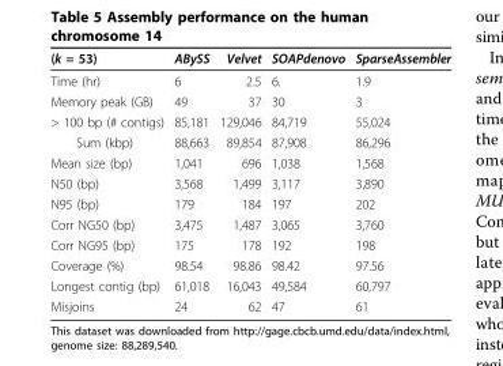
<table><thead><tr><td>(k = 53)</td><td>ABySS</td><td>Velvet</td><td>SOAPdenovo</td><td>SparseAssembler</td></tr></thead><tbody><tr><td>Time (hr)</td><td>6</td><td>2.5</td><td>6.</td><td>1.9</td></tr><tr><td>Memory peak (GB)</td><td>49</td><td>37</td><td>30</td><td>3</td></tr><tr><td>&gt; 100 bp (# contigs)</td><td>85,181</td><td>129,046</td><td>84,719</td><td>55,024</td></tr><tr><td>Sum (kbp)</td><td>88,663</td><td>89,854</td><td>87,908</td><td>86,296</td></tr><tr><td>Mean size (bp)</td><td>1,041</td><td>696</td><td>1,038</td><td>1,568</td></tr><tr><td>N50 (bp)</td><td>3,568</td><td>1,499</td><td>3,117</td><td>3,890</td></tr><tr><td>N95 (bp)</td><td>179</td><td>184</td><td>197</td><td>202</td></tr><tr><td>Corr NG50 (bp)</td><td>3,475</td><td>1,487</td><td>3,065</td><td>3,760</td></tr><tr><td>Corr NG95 (bp)</td><td>175</td><td>178</td><td>192</td><td>198</td></tr><tr><td>Coverage (%)</td><td>98.54</td><td>98.86</td><td>98.42</td><td>97.56</td></tr><tr><td>Longest contig (bp)</td><td>61,018</td><td>16,043</td><td>49,584</td><td>60,797</td></tr><tr><td>Misjoins</td><td>24</td><td>62</td><td>47</td><td>61</td></tr></tbody></table>